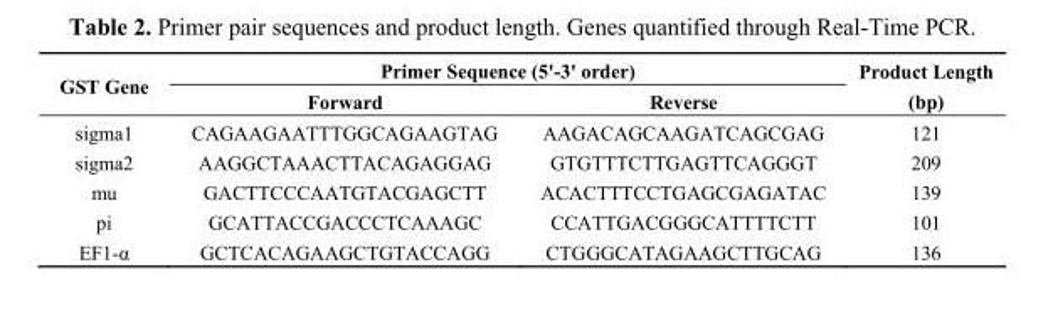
<table><thead><tr><td rowspan="2">GST Gene</td><td colspan="2">Primer Sequence (5&#x27;-3&#x27; order)</td><td rowspan="2">Product Length (bp)</td></tr><tr><td>Forward</td><td>Reverse</td></tr></thead><tbody><tr><td>sigma1</td><td>CAGAAGAATTTGGCAGAAGTAG</td><td>AAGACAGCAAGATCAGCGAG</td><td>121</td></tr><tr><td>sigma2</td><td>AAGGCTAAACTTACAGAGGAG</td><td>GTGTTTCTTGAGTTCAGGGT</td><td>209</td></tr><tr><td>mu</td><td>GACTTCCCAATGTACGAGCTT</td><td>ACACTTTCCTGAGCGAGATAC</td><td>139</td></tr><tr><td>pi</td><td>GCATTACCGACCCTCAAAGC</td><td>CCATTGACGGGCATTTTCTT</td><td>101</td></tr><tr><td>EF1-α</td><td>GCTCACAGAAGCTGTACCAGG</td><td>CTGGGCATAGAAGCTTGCAG</td><td>136</td></tr></tbody></table>